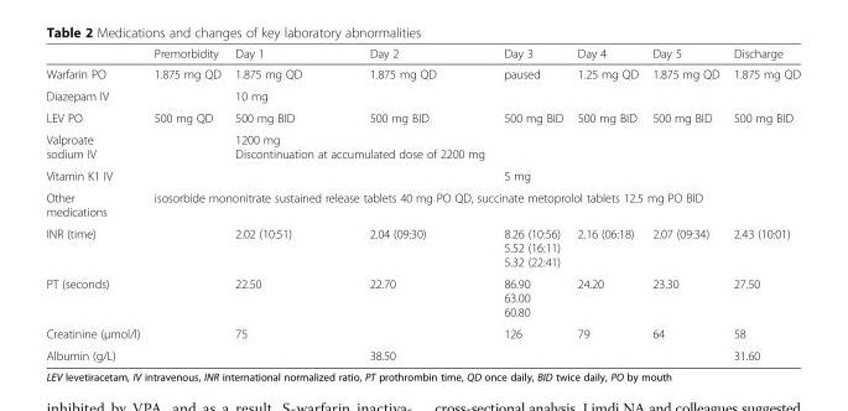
<table><thead><tr><td></td><td>Premorbidity</td><td>Day 1</td><td>Day 2</td><td>Day 3</td><td>Day 4</td><td>Day 5</td><td>Discharge</td></tr></thead><tbody><tr><td>Warfarin PO</td><td>1.875 mg QD</td><td>1.875 mg QD</td><td>1.875 mg QD</td><td>paused</td><td>1.25 mg QD</td><td>1.875 mg QD</td><td>1.875 mg QD</td></tr><tr><td>Diazepam IV</td><td></td><td>10 mg</td><td></td><td></td><td></td><td></td><td></td></tr><tr><td>LEV PO</td><td>500 mg QD</td><td>500 mg BID</td><td>500 mg BID</td><td>500 mg BID</td><td>500 mg BID</td><td>500 mg BID</td><td>500 mg BID</td></tr><tr><td>Valproate sodium IV</td><td></td><td colspan="2">1200 mg Discontinuation at accumulated dose of 2200 mg</td><td></td><td></td><td></td><td></td></tr><tr><td>Vitamin K1 IV</td><td></td><td></td><td></td><td>5 mg</td><td></td><td></td><td></td></tr><tr><td>Other medications</td><td colspan="7">isosorbide mononitrate sustained release tablets 40 mg PO QD, succinate metoprolol tablets 12.5 mg PO BID</td></tr><tr><td>INR (time)</td><td></td><td>2.02 (10:51)</td><td>2.04 (09:30)</td><td>8.26 (10:56) 5.52 (16:11) 5.32 (22:41)</td><td>2.16 (06:18)</td><td>2.07 (09:34)</td><td>2.43 (10:01)</td></tr><tr><td>PT (seconds)</td><td></td><td>22.50</td><td>22.70</td><td>86.90 63.00 60.80</td><td>24.20</td><td>23.30</td><td>27.50</td></tr><tr><td>Creatinine (μmol/l)</td><td></td><td>75</td><td></td><td>126</td><td>79</td><td>64</td><td>58</td></tr><tr><td>Albumin (g/L)</td><td></td><td></td><td>38.50</td><td></td><td></td><td></td><td>31.60</td></tr></tbody></table>